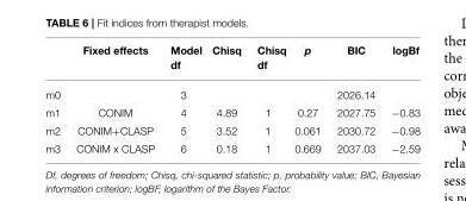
<table><thead><tr><td></td><td>Fixed effects</td><td>Model df</td><td>Chisq</td><td>Chisq df</td><td>p</td><td>BIC</td><td>logBf</td></tr></thead><tbody><tr><td>m0</td><td></td><td>3</td><td></td><td></td><td></td><td>2026.14</td><td></td></tr><tr><td>m1</td><td>CONIM</td><td>4</td><td>4.89</td><td>1</td><td>0.27</td><td>2027.75</td><td>−0.83</td></tr><tr><td>m2</td><td>CONIM+CLASP</td><td>5</td><td>3.52</td><td>1</td><td>0.061</td><td>2030.72</td><td>−0.98</td></tr><tr><td>m3</td><td>CONIM x CLASP</td><td>6</td><td>0.18</td><td>1</td><td>0.669</td><td>2037.03</td><td>−2.59</td></tr></tbody></table>